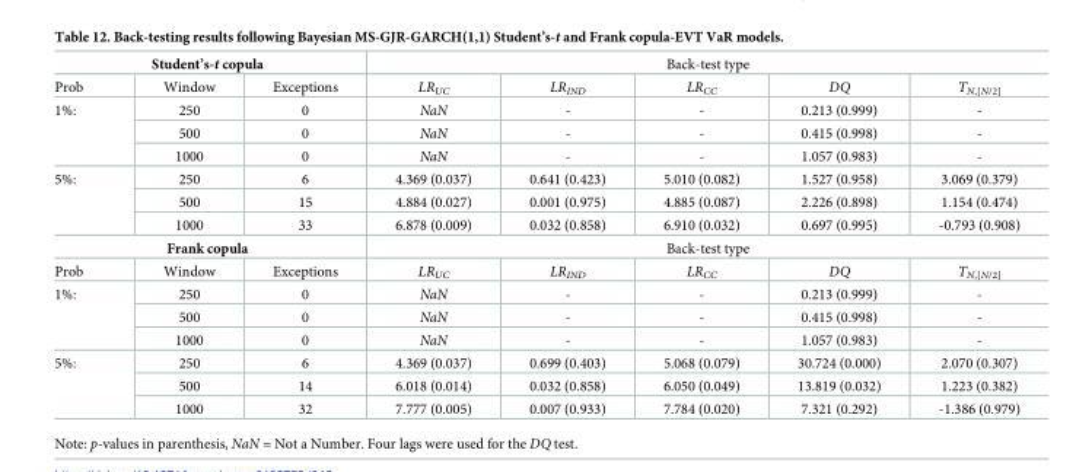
<table><tbody><tr><td colspan="3">Student’s-t copula</td><td colspan="5">Back-test type</td></tr><tr><td>Prob</td><td>Window</td><td>Exceptions</td><td>LR<sub>UC</sub></td><td>LR<sub>IND</sub></td><td>LR<sub>CC</sub></td><td>DQ</td><td>T<sub>N,[N/2]</sub></td></tr><tr><td rowspan="3">1%:</td><td>250</td><td>0</td><td>NaN</td><td>-</td><td>-</td><td>0.213 (0.999)</td><td>-</td></tr><tr><td>500</td><td>0</td><td>NaN</td><td>-</td><td>-</td><td>0.415 (0.998)</td><td>-</td></tr><tr><td>1000</td><td>0</td><td>NaN</td><td>-</td><td>-</td><td>1.057 (0.983)</td><td>-</td></tr><tr><td rowspan="3">5%:</td><td>250</td><td>6</td><td>4.369 (0.037)</td><td>0.641 (0.423)</td><td>5.010 (0.082)</td><td>1.527 (0.958)</td><td>3.069 (0.379)</td></tr><tr><td>500</td><td>15</td><td>4.884 (0.027)</td><td>0.001 (0.975)</td><td>4.885 (0.087)</td><td>2.226 (0.898)</td><td>1.154 (0.474)</td></tr><tr><td>1000</td><td>33</td><td>6.878 (0.009)</td><td>0.032 (0.858)</td><td>6.910 (0.032)</td><td>0.697 (0.995)</td><td>-0.793 (0.908)</td></tr><tr><td colspan="3">Frank copula</td><td colspan="5">Back-test type</td></tr><tr><td>Prob</td><td>Window</td><td>Exceptions</td><td>LR<sub>UC</sub></td><td>LR<sub>IND</sub></td><td>LR<sub>CC</sub></td><td>DQ</td><td>T<sub>N,[N/2]</sub></td></tr><tr><td rowspan="3">1%:</td><td>250</td><td>0</td><td>NaN</td><td>-</td><td>-</td><td>0.213 (0.999)</td><td>-</td></tr><tr><td>500</td><td>0</td><td>NaN</td><td>-</td><td>-</td><td>0.415 (0.998)</td><td>-</td></tr><tr><td>1000</td><td>0</td><td>NaN</td><td>-</td><td>-</td><td>1.057 (0.983)</td><td>-</td></tr><tr><td rowspan="3">5%:</td><td>250</td><td>6</td><td>4.369 (0.037)</td><td>0.699 (0.403)</td><td>5.068 (0.079)</td><td>30.724 (0.000)</td><td>2.070 (0.307)</td></tr><tr><td>500</td><td>14</td><td>6.018 (0.014)</td><td>0.032 (0.858)</td><td>6.050 (0.049)</td><td>13.819 (0.032)</td><td>1.223 (0.382)</td></tr><tr><td>1000</td><td>32</td><td>7.777 (0.005)</td><td>0.007 (0.933)</td><td>7.784 (0.020)</td><td>7.321 (0.292)</td><td>-1.386 (0.979)</td></tr></tbody></table>